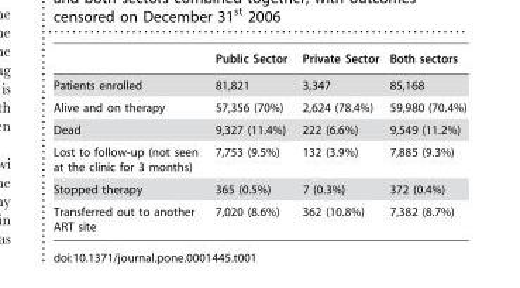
<table><thead><tr><td></td><td>Public Sector</td><td>Private Sector</td><td>Both sectors</td></tr></thead><tbody><tr><td>Patients enrolled</td><td>81,821</td><td>3,347</td><td>85,168</td></tr><tr><td>Alive and on therapy</td><td>57,356 (70%)</td><td>2,624 (78.4%)</td><td>59,980 (70.4%)</td></tr><tr><td>Dead</td><td>9,327 (11.4%)</td><td>222 (6.6%)</td><td>9,549 (11.2%)</td></tr><tr><td>Lost to follow-up (not seen at the clinic for 3 months)</td><td>7,753 (9.5%)</td><td>132 (3.9%)</td><td>7,885 (9.3%)</td></tr><tr><td>Stopped therapy</td><td>365 (0.5%)</td><td>7 (0.3%)</td><td>372 (0.4%)</td></tr><tr><td>Transferred out to another ART site</td><td>7,020 (8.6%)</td><td>362 (10.8%)</td><td>7,382 (8.7%)</td></tr></tbody></table>